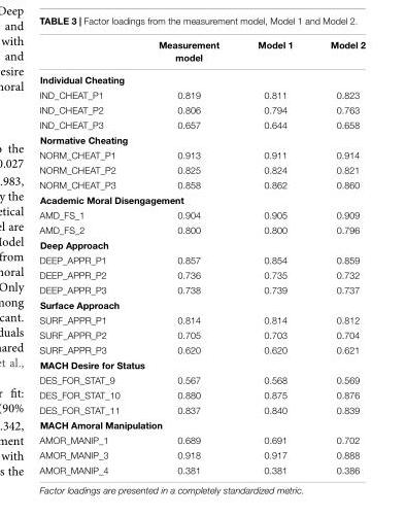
<table><thead><tr><td></td><td>Measurement model</td><td>Model 1</td><td>Model 2</td></tr></thead><tbody><tr><td colspan="4">Individual Cheating</td></tr><tr><td>IND_CHEAT_P1</td><td>0.819</td><td>0.811</td><td>0.823</td></tr><tr><td>IND_CHEAT_P2</td><td>0.806</td><td>0.794</td><td>0.763</td></tr><tr><td>IND_CHEAT_P3</td><td>0.657</td><td>0.644</td><td>0.658</td></tr><tr><td colspan="4">Normative Cheating</td></tr><tr><td>NORM_CHEAT_P1</td><td>0.913</td><td>0.911</td><td>0.914</td></tr><tr><td>NORM_CHEAT_P2</td><td>0.825</td><td>0.824</td><td>0.821</td></tr><tr><td>NORM_CHEAT_P3</td><td>0.858</td><td>0.862</td><td>0.860</td></tr><tr><td colspan="4">Academic Moral Disengagement</td></tr><tr><td>AMD_FS_1</td><td>0.904</td><td>0.905</td><td>0.909</td></tr><tr><td>AMD_FS_2</td><td>0.800</td><td>0.800</td><td>0.796</td></tr><tr><td colspan="4">Deep Approach</td></tr><tr><td>DEEP_APPR_P1</td><td>0.857</td><td>0.854</td><td>0.859</td></tr><tr><td>DEEP_APPR_P2</td><td>0.736</td><td>0.735</td><td>0.732</td></tr><tr><td>DEEP_APPR_P3</td><td>0.738</td><td>0.739</td><td>0.737</td></tr><tr><td colspan="4">Surface Approach</td></tr><tr><td>SURF_APPR_P1</td><td>0.814</td><td>0.814</td><td>0.812</td></tr><tr><td>SURF_APPR_P2</td><td>0.705</td><td>0.703</td><td>0.704</td></tr><tr><td>SURF_APPR_P3</td><td>0.620</td><td>0.620</td><td>0.621</td></tr><tr><td colspan="4">MACH Desire for Status</td></tr><tr><td>DES_FOR_STAT_9</td><td>0.567</td><td>0.568</td><td>0.569</td></tr><tr><td>DES_FOR_STAT_10</td><td>0.880</td><td>0.875</td><td>0.876</td></tr><tr><td>DES_FOR_STAT_11</td><td>0.837</td><td>0.840</td><td>0.839</td></tr><tr><td colspan="4">MACH Amoral Manipulation</td></tr><tr><td>AMOR_MANIP_1</td><td>0.689</td><td>0.691</td><td>0.702</td></tr><tr><td>AMOR_MANIP_3</td><td>0.918</td><td>0.917</td><td>0.888</td></tr><tr><td>AMOR_MANIP_4</td><td>0.381</td><td>0.381</td><td>0.386</td></tr></tbody></table>